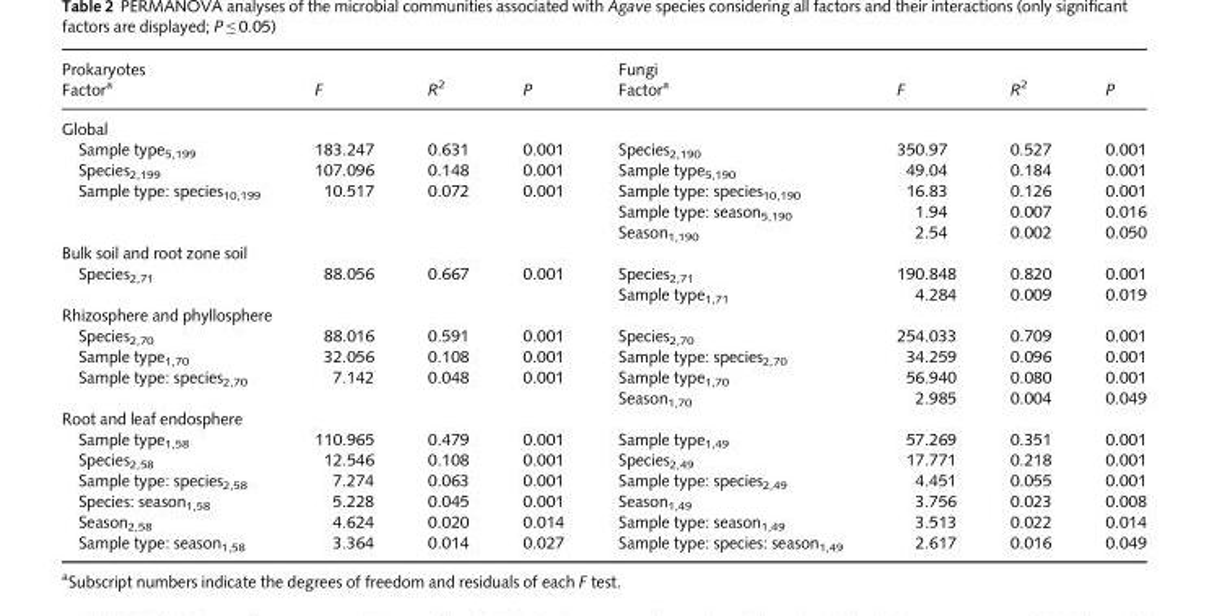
<table><thead><tr><td colspan="4">Prokaryotes</td><td colspan="4">Fungi</td></tr><tr><td>Factor<sup>a</sup></td><td>F</td><td>R<sup>2</sup></td><td>P</td><td>Factor<sup>a</sup></td><td>F</td><td>R<sup>2</sup></td><td>P</td></tr></thead><tbody><tr><td colspan="8">Global</td></tr><tr><td>Sample type<sub>5,199</sub></td><td>183.247</td><td>0.631</td><td>0.001</td><td>Species<sub>2,190</sub></td><td>350.97</td><td>0.527</td><td>0.001</td></tr><tr><td>Species<sub>2,199</sub></td><td>107.096</td><td>0.148</td><td>0.001</td><td>Sample type<sub>5,190</sub></td><td>49.04</td><td>0.184</td><td>0.001</td></tr><tr><td rowspan="3">Sample type: species<sub>10,199</sub></td><td>10.517</td><td>0.072</td><td>0.001</td><td>Sample type: species<sub>10,190</sub></td><td>16.83</td><td>0.126</td><td>0.001</td></tr><tr><td></td><td></td><td></td><td>Sample type: season<sub>5,190</sub></td><td>1.94</td><td>0.007</td><td>0.016</td></tr><tr><td></td><td></td><td></td><td>Season<sub>1,190</sub></td><td>2.54</td><td>0.002</td><td>0.050</td></tr><tr><td colspan="8">Bulk soil and root zone soil</td></tr><tr><td rowspan="2">Species<sub>2,71</sub></td><td>88.056</td><td>0.667</td><td>0.001</td><td>Species<sub>2,71</sub></td><td>190.848</td><td>0.820</td><td>0.001</td></tr><tr><td></td><td></td><td></td><td>Sample type<sub>1,71</sub></td><td>4.284</td><td>0.009</td><td>0.019</td></tr><tr><td colspan="8">Rhizosphere and phyllosphere</td></tr><tr><td>Species<sub>2,70</sub></td><td>88.016</td><td>0.591</td><td>0.001</td><td>Species<sub>2,70</sub></td><td>254.033</td><td>0.709</td><td>0.001</td></tr><tr><td>Sample type<sub>1,70</sub></td><td>32.056</td><td>0.108</td><td>0.001</td><td>Sample type: species<sub>2,70</sub></td><td>34.259</td><td>0.096</td><td>0.001</td></tr><tr><td rowspan="2">Sample type: species<sub>2,70</sub></td><td>7.142</td><td>0.048</td><td>0.001</td><td>Sample type<sub>1,70</sub></td><td>56.940</td><td>0.080</td><td>0.001</td></tr><tr><td></td><td></td><td></td><td>Season<sub>1,70</sub></td><td>2.985</td><td>0.004</td><td>0.049</td></tr><tr><td colspan="8">Root and leaf endosphere</td></tr><tr><td>Sample type<sub>1,58</sub></td><td>110.965</td><td>0.479</td><td>0.001</td><td>Sample type<sub>1,49</sub></td><td>57.269</td><td>0.351</td><td>0.001</td></tr><tr><td>Species<sub>2,58</sub></td><td>12.546</td><td>0.108</td><td>0.001</td><td>Species<sub>2,49</sub></td><td>17.771</td><td>0.218</td><td>0.001</td></tr><tr><td>Sample type: species<sub>2,58</sub></td><td>7.274</td><td>0.063</td><td>0.001</td><td>Sample type: species<sub>2,49</sub></td><td>4.451</td><td>0.055</td><td>0.001</td></tr><tr><td>Species: season<sub>1,58</sub></td><td>5.228</td><td>0.045</td><td>0.001</td><td>Season<sub>1,49</sub></td><td>3.756</td><td>0.023</td><td>0.008</td></tr><tr><td>Season<sub>2,58</sub></td><td>4.624</td><td>0.020</td><td>0.014</td><td>Sample type: season<sub>1,49</sub></td><td>3.513</td><td>0.022</td><td>0.014</td></tr><tr><td>Sample type: season<sub>1,58</sub></td><td>3.364</td><td>0.014</td><td>0.027</td><td>Sample type: species: season<sub>1,49</sub></td><td>2.617</td><td>0.016</td><td>0.049</td></tr></tbody></table>